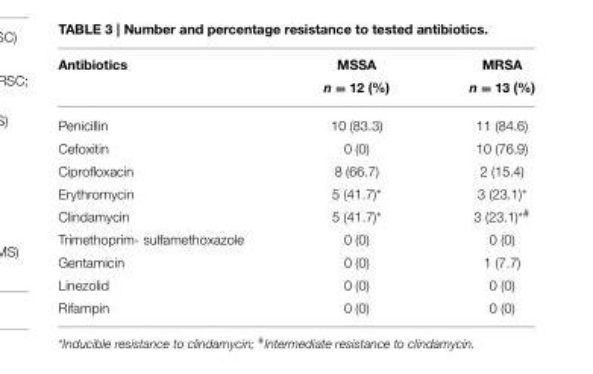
<table><thead><tr><td rowspan="2">Antibiotics</td><td rowspan="2">MSSA n = 12 (%)</td><td rowspan="2">MRSA n = 13 (%)</td></tr><tr></tr></thead><tbody><tr><td>Penicillin</td><td>10 (83.3)</td><td>11 (84.6)</td></tr><tr><td>Cefoxitin</td><td>0 (0)</td><td>10 (76.9)</td></tr><tr><td>Ciprofloxacin</td><td>8 (66.7)</td><td>2 (15.4)</td></tr><tr><td>Erythromycin</td><td>5 (41.7)*</td><td>3 (23.1)*</td></tr><tr><td>Clindamycin</td><td>5 (41.7)*</td><td>3 (23.1)<sup>*#</sup></td></tr><tr><td>Trimethoprim- sulfamethoxazole</td><td>0 (0)</td><td>0 (0)</td></tr><tr><td>Gentamicin</td><td>0 (0)</td><td>1 (7.7)</td></tr><tr><td>Linezolid</td><td>0 (0)</td><td>0 (0)</td></tr><tr><td>Rifampin</td><td>0 (0)</td><td>0 (0)</td></tr></tbody></table>